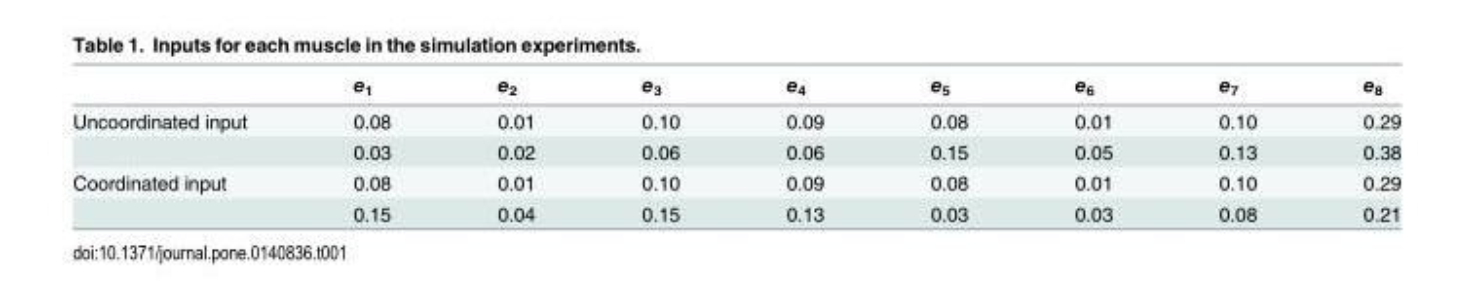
<table><thead><tr><td></td><td>e<sub>1</sub></td><td>e<sub>2</sub></td><td>e<sub>3</sub></td><td>e<sub>4</sub></td><td>e<sub>5</sub></td><td>e<sub>6</sub></td><td>e<sub>7</sub></td><td>e<sub>8</sub></td></tr></thead><tbody><tr><td rowspan="2">Uncoordinated input</td><td>0.08</td><td>0.01</td><td>0.10</td><td>0.09</td><td>0.08</td><td>0.01</td><td>0.10</td><td>0.29</td></tr><tr><td>0.03</td><td>0.02</td><td>0.06</td><td>0.06</td><td>0.15</td><td>0.05</td><td>0.13</td><td>0.38</td></tr><tr><td rowspan="2">Coordinated input</td><td>0.08</td><td>0.01</td><td>0.10</td><td>0.09</td><td>0.08</td><td>0.01</td><td>0.10</td><td>0.29</td></tr><tr><td>0.15</td><td>0.04</td><td>0.15</td><td>0.13</td><td>0.03</td><td>0.03</td><td>0.08</td><td>0.21</td></tr></tbody></table>